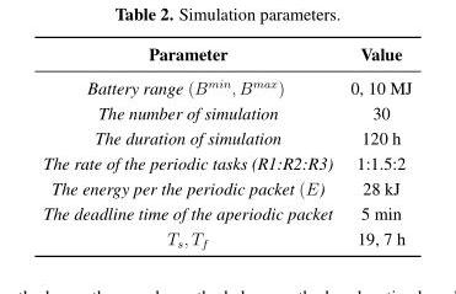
<table><thead><tr><td>Parameter</td><td>Value</td></tr></thead><tbody><tr><td>Battery range (B<sup>min</sup>, B<sup>max</sup>)</td><td>0, 10 MJ</td></tr><tr><td>The number of simulation</td><td>30</td></tr><tr><td>The duration of simulation</td><td>120 h</td></tr><tr><td>The rate of the periodic tasks (R1:R2:R3)</td><td>1:1.5:2</td></tr><tr><td>The energy per the periodic packet (E)</td><td>28 kJ</td></tr><tr><td>The deadline time of the aperiodic packet</td><td>5 min</td></tr><tr><td>T<sub>s</sub>, T<sub>f</sub></td><td>19, 7 h</td></tr></tbody></table>